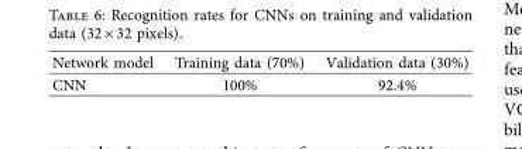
<table><thead><tr><td>Network model</td><td>Training data (70%)</td><td>Validation data (30%)</td></tr></thead><tbody><tr><td>CNN</td><td>100%</td><td>92.4%</td></tr></tbody></table>